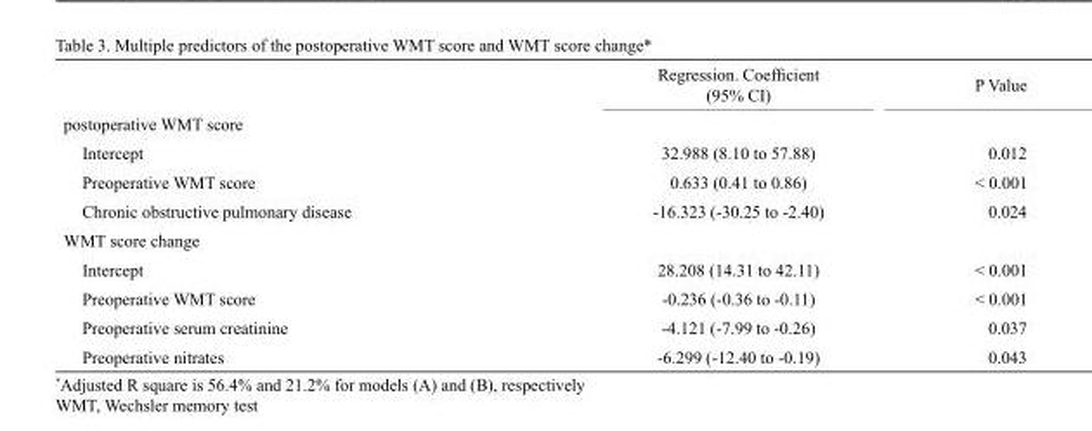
<table><thead><tr><td></td><td>Regression. Coefficient (95% CI)</td><td>P Value</td></tr></thead><tbody><tr><td colspan="3">postoperative WMT score</td></tr><tr><td>Intercept</td><td>32.988 (8.10 to 57.88)</td><td>0.012</td></tr><tr><td>Preoperative WMT score</td><td>0.633 (0.41 to 0.86)</td><td>&lt; 0.001</td></tr><tr><td>Chronic obstructive pulmonary disease</td><td>-16.323 (-30.25 to -2.40)</td><td>0.024</td></tr><tr><td colspan="3">WMT score change</td></tr><tr><td>Intercept</td><td>28.208 (14.31 to 42.11)</td><td>&lt; 0.001</td></tr><tr><td>Preoperative WMT score</td><td>-0.236 (-0.36 to -0.11)</td><td>&lt; 0.001</td></tr><tr><td>Preoperative serum creatinine</td><td>-4.121 (-7.99 to -0.26)</td><td>0.037</td></tr><tr><td>Preoperative nitrates</td><td>-6.299 (-12.40 to -0.19)</td><td>0.043</td></tr></tbody></table>